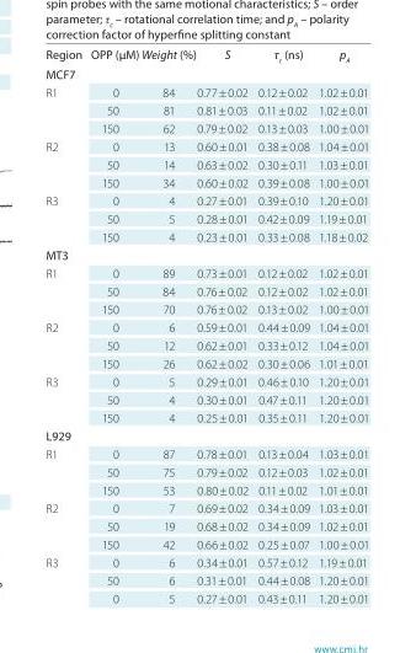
<table><thead><tr><td>Region</td><td>oPP (µM)</td><td>Weight (%)</td><td>S</td><td>τ<sub>c</sub> (ns)</td><td>p<sub>A</sub></td></tr></thead><tbody><tr><td colspan="6">MCF7</td></tr><tr><td rowspan="3">R1</td><td>0</td><td>84</td><td>0.77 ± 0.02</td><td>0.12 ± 0.02</td><td>1.02 ± 0.01</td></tr><tr><td>50</td><td>81</td><td>0.81 ± 0.03</td><td>0.11 ± 0.02</td><td>1.02 ± 0.01</td></tr><tr><td>150</td><td>62</td><td>0.79 ± 0.02</td><td>0.13 ± 0.03</td><td>1.00 ± 0.01</td></tr><tr><td rowspan="3">R2</td><td>0</td><td>13</td><td>0.60 ± 0.01</td><td>0.38 ± 0.08</td><td>1.04 ± 0.01</td></tr><tr><td>50</td><td>14</td><td>0.63 ± 0.02</td><td>0.30 ± 0.11</td><td>1.03 ± 0.01</td></tr><tr><td>150</td><td>34</td><td>0.60 ± 0.02</td><td>0.39 ± 0.08</td><td>1.00 ± 0.01</td></tr><tr><td rowspan="3">R3</td><td>0</td><td>4</td><td>0.27 ± 0.01</td><td>0.39 ± 0.10</td><td>1.20 ± 0.01</td></tr><tr><td>50</td><td>5</td><td>0.28 ± 0.01</td><td>0.42 ± 0.09</td><td>1.19 ± 0.01</td></tr><tr><td>150</td><td>4</td><td>0.23 ± 0.01</td><td>0.33 ± 0.08</td><td>1.18 ± 0.02</td></tr><tr><td colspan="6">MT3</td></tr><tr><td rowspan="3">R1</td><td>0</td><td>89</td><td>0.73 ± 0.01</td><td>0.12 ± 0.02</td><td>1.02 ± 0.01</td></tr><tr><td>50</td><td>84</td><td>0.76 ± 0.02</td><td>0.12 ± 0.02</td><td>1.02 ± 0.01</td></tr><tr><td>150</td><td>70</td><td>0.76 ± 0.02</td><td>0.13 ± 0.02</td><td>1.00 ± 0.01</td></tr><tr><td rowspan="3">R2</td><td>0</td><td>6</td><td>0.59 ± 0.01</td><td>0.44 ± 0.09</td><td>1.04 ± 0.01</td></tr><tr><td>50</td><td>12</td><td>0.62 ± 0.01</td><td>0.33 ± 0.12</td><td>1.04 ± 0.01</td></tr><tr><td>150</td><td>26</td><td>0.62 ± 0.02</td><td>0.30 ± 0.06</td><td>1.01 ± 0.01</td></tr><tr><td rowspan="3">R3</td><td>0</td><td>5</td><td>0.29 ± 0.01</td><td>0.46 ± 0.10</td><td>1.20 ± 0.01</td></tr><tr><td>50</td><td>4</td><td>0.30 ± 0.01</td><td>0.47 ± 0.11</td><td>1.20 ± 0.01</td></tr><tr><td>150</td><td>4</td><td>0.25 ± 0.01</td><td>0.35 ± 0.11</td><td>1.20 ± 0.01</td></tr><tr><td colspan="6">l929</td></tr><tr><td rowspan="3">R1</td><td>0</td><td>87</td><td>0.78 ± 0.01</td><td>0.13 ± 0.04</td><td>1.03 ± 0.01</td></tr><tr><td>50</td><td>75</td><td>0.79 ± 0.02</td><td>0.12 ± 0.03</td><td>1.02 ± 0.01</td></tr><tr><td>150</td><td>53</td><td>0.80 ± 0.02</td><td>0.11 ± 0.02</td><td>1.01 ± 0.01</td></tr><tr><td rowspan="3">R2</td><td>0</td><td>7</td><td>0.69 ± 0.02</td><td>0.34 ± 0.09</td><td>1.03 ± 0.01</td></tr><tr><td>50</td><td>19</td><td>0.68 ± 0.02</td><td>0.34 ± 0.09</td><td>1.02 ± 0.01</td></tr><tr><td>150</td><td>42</td><td>0.66 ± 0.02</td><td>0.25 ± 0.07</td><td>1.00 ± 0.01</td></tr><tr><td rowspan="3">R3</td><td>0</td><td>6</td><td>0.34 ± 0.01</td><td>0.57 ± 0.12</td><td>1.19 ± 0.01</td></tr><tr><td>50</td><td>6</td><td>0.31 ± 0.01</td><td>0.44 ± 0.08</td><td>1.20 ± 0.01</td></tr><tr><td>0</td><td>5</td><td>0.27 ± 0.01</td><td>0.43 ± 0.11</td><td>1.20 ± 0.01</td></tr></tbody></table>